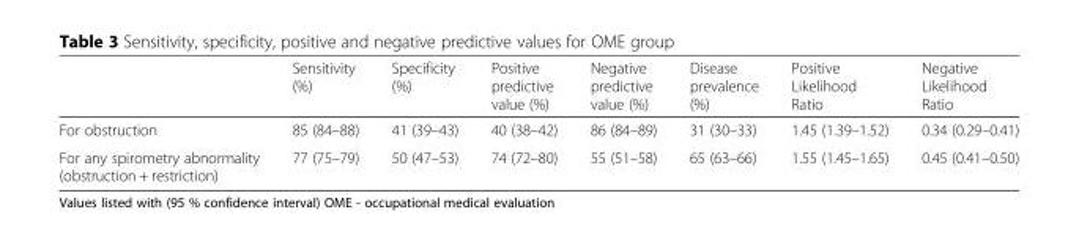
<table><thead><tr><td></td><td>Sensitivity (%)</td><td>Specificity (%)</td><td>Positive predictive value (%)</td><td>Negative predictive value (%)</td><td>Disease prevalence (%)</td><td>Positive Likelihood Ratio</td><td>Negative Likelihood Ratio</td></tr></thead><tbody><tr><td>For obstruction</td><td>85 (84–88)</td><td>41 (39–43)</td><td>40 (38–42)</td><td>86 (84–89)</td><td>31 (30–33)</td><td>1.45 (1.39–1.52)</td><td>0.34 (0.29–0.41)</td></tr><tr><td>For any spirometry abnormality (obstruction + restriction)</td><td>77 (75–79)</td><td>50 (47–53)</td><td>74 (72–80)</td><td>55 (51–58)</td><td>65 (63–66)</td><td>1.55 (1.45–1.65)</td><td>0.45 (0.41–0.50)</td></tr></tbody></table>